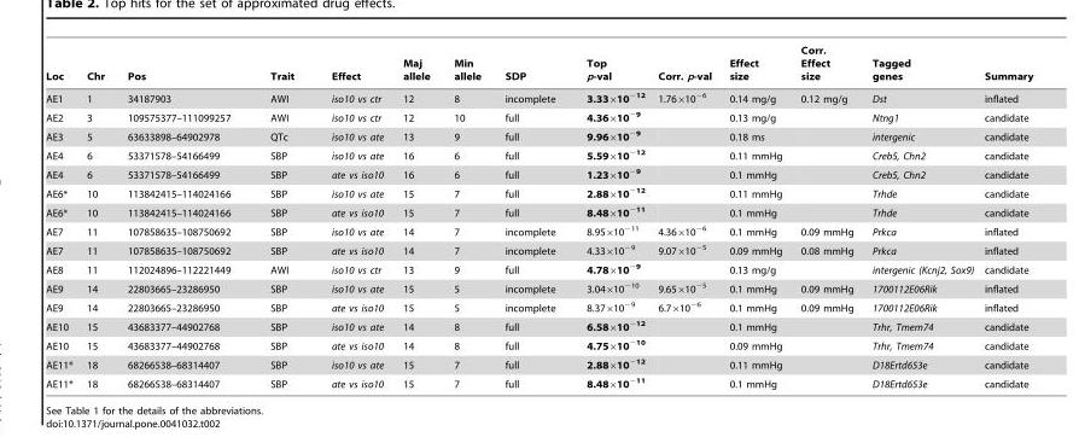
<table><thead><tr><td>Loc</td><td>Chr</td><td>Pos</td><td>Trait</td><td>Effect</td><td>Maj allele</td><td>Min allele</td><td>SDP</td><td>Top p-val</td><td>Corr. p-val</td><td>Effect size</td><td>Corr. Effect size</td><td>Tagged genes</td><td>Summary</td></tr></thead><tbody><tr><td>AE1</td><td>1</td><td>34187903</td><td>AWI</td><td>iso10 vs ctr</td><td>12</td><td>8</td><td>incomplete</td><td>3.33×10<sup>−12</sup></td><td>1.76×10<sup>−6</sup></td><td>0.14 mg/g</td><td>0.12 mg/g</td><td>Dst</td><td>inflated</td></tr><tr><td>AE2</td><td>3</td><td>109575377–111099257</td><td>AWI</td><td>iso10 vs ctr</td><td>12</td><td>10</td><td>full</td><td>4.36×10<sup>−9</sup></td><td></td><td>0.13 mg/g</td><td></td><td>Ntng1</td><td>candidate</td></tr><tr><td>AE3</td><td>5</td><td>63633898–64902978</td><td>QTc</td><td>iso10 vs ate</td><td>13</td><td>9</td><td>full</td><td>9.96×10<sup>−9</sup></td><td></td><td>0.18 ms</td><td></td><td>intergenic</td><td>candidate</td></tr><tr><td>AE4</td><td>6</td><td>53371578–54166499</td><td>SBP</td><td>iso10 vs ate</td><td>16</td><td>6</td><td>full</td><td>5.59×10<sup>−12</sup></td><td></td><td>0.11 mmHg</td><td></td><td>Creb5, Chn2</td><td>candidate</td></tr><tr><td>AE4</td><td>6</td><td>53371578–54166499</td><td>SBP</td><td>ate vs iso10</td><td>16</td><td>6</td><td>full</td><td>1.23×10<sup>−9</sup></td><td></td><td>0.1 mmHg</td><td></td><td>Creb5, Chn2</td><td>candidate</td></tr><tr><td>AE6*</td><td>10</td><td>113842415–114024166</td><td>SBP</td><td>iso10 vs ate</td><td>15</td><td>7</td><td>full</td><td>2.88×10<sup>−12</sup></td><td></td><td>0.11 mmHg</td><td></td><td>Trhde</td><td>candidate</td></tr><tr><td>AE6*</td><td>10</td><td>113842415–114024166</td><td>SBP</td><td>ate vs iso10</td><td>15</td><td>7</td><td>full</td><td>8.48×10<sup>−11</sup></td><td></td><td>0.1 mmHg</td><td></td><td>Trhde</td><td>candidate</td></tr><tr><td>AE7</td><td>11</td><td>107858635–108750692</td><td>SBP</td><td>iso10 vs ate</td><td>14</td><td>7</td><td>incomplete</td><td>8.95×10<sup>−11</sup></td><td>4.36×10<sup>−6</sup></td><td>0.1 mmHg</td><td>0.09 mmHg</td><td>Prkca</td><td>inflated</td></tr><tr><td>AE7</td><td>11</td><td>107858635–108750692</td><td>SBP</td><td>ate vs iso10</td><td>14</td><td>7</td><td>incomplete</td><td>4.33×10<sup>−9</sup></td><td>9.07×10<sup>−5</sup></td><td>0.09 mmHg</td><td>0.08 mmHg</td><td>Prkca</td><td>inflated</td></tr><tr><td>AE8</td><td>11</td><td>112024896–112221449</td><td>AWI</td><td>iso10 vs ctr</td><td>13</td><td>9</td><td>full</td><td>4.78×10<sup>−9</sup></td><td></td><td>0.13 mg/g</td><td></td><td>intergenic (Kcnj2, Sox9)</td><td>candidate</td></tr><tr><td>AE9</td><td>14</td><td>22803665–23286950</td><td>SBP</td><td>iso10 vs ate</td><td>15</td><td>5</td><td>incomplete</td><td>3.04×10<sup>−10</sup></td><td>9.65×10<sup>−5</sup></td><td>0.1 mmHg</td><td>0.09 mmHg</td><td>1700112E06Rik</td><td>inflated</td></tr><tr><td>AE9</td><td>14</td><td>22803665–23286950</td><td>SBP</td><td>ate vs iso10</td><td>15</td><td>5</td><td>incomplete</td><td>8.37×10<sup>−9</sup></td><td>6.7×10<sup>−6</sup></td><td>0.1 mmHg</td><td>0.09 mmHg</td><td>1700112E06Rik</td><td>inflated</td></tr><tr><td>AE10</td><td>15</td><td>43683377–44902768</td><td>SBP</td><td>iso10 vs ate</td><td>14</td><td>8</td><td>full</td><td>6.58×10<sup>−12</sup></td><td></td><td>0.1 mmHg</td><td></td><td>Trhr, Tmem74</td><td>candidate</td></tr><tr><td>AE10</td><td>15</td><td>43683377–44902768</td><td>SBP</td><td>ate vs iso10</td><td>14</td><td>8</td><td>full</td><td>4.75×10<sup>−10</sup></td><td></td><td>0.09 mmHg</td><td></td><td>Trhr, Tmem74</td><td>candidate</td></tr><tr><td>AE11*</td><td>18</td><td>68266538–68314407</td><td>SBP</td><td>iso10 vs ate</td><td>15</td><td>7</td><td>full</td><td>2.88×10<sup>−12</sup></td><td></td><td>0.11 mmHg</td><td></td><td>D18Ertd653e</td><td>candidate</td></tr><tr><td>AE11*</td><td>18</td><td>68266538–68314407</td><td>SBP</td><td>ate vs iso10</td><td>15</td><td>7</td><td>full</td><td>8.48×10<sup>−11</sup></td><td></td><td>0.1 mmHg</td><td></td><td>D18Ertd653e</td><td>candidate</td></tr></tbody></table>